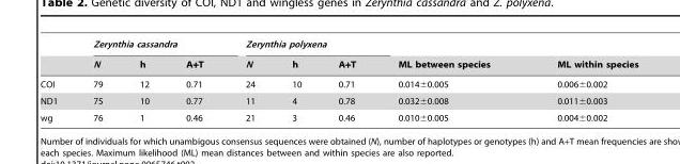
<table><thead><tr><td rowspan="2"></td><td colspan="3">Zerynthia cassandra</td><td colspan="3">Zerynthia polyxena</td><td rowspan="2">ML between species</td><td rowspan="2">ML within species</td></tr><tr><td>N</td><td>h</td><td>A+T</td><td>N</td><td>h</td><td>A+T</td></tr></thead><tbody><tr><td>COI</td><td>79</td><td>12</td><td>0.71</td><td>24</td><td>10</td><td>0.71</td><td>0.014±0.005</td><td>0.006±0.002</td></tr><tr><td>ND1</td><td>75</td><td>10</td><td>0.77</td><td>11</td><td>4</td><td>0.78</td><td>0.032±0.008</td><td>0.011±0.003</td></tr><tr><td>wg</td><td>76</td><td>1</td><td>0.46</td><td>21</td><td>3</td><td>0.46</td><td>0.010±0.005</td><td>0.004±0.002</td></tr></tbody></table>